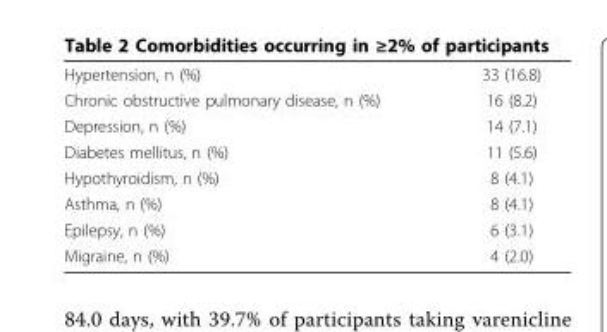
<table><tbody><tr><td>Hypertension, n (%)</td><td>33 (16.8)</td></tr><tr><td>Chronic obstructive pulmonary disease, n (%)</td><td>16 (8.2)</td></tr><tr><td>Depression, n (%)</td><td>14 (7.1)</td></tr><tr><td>Diabetes mellitus, n (%)</td><td>11 (5.6)</td></tr><tr><td>Hypothyroidism, n (%)</td><td>8 (4.1)</td></tr><tr><td>Asthma, n (%)</td><td>8 (4.1)</td></tr><tr><td>Epilepsy, n (%)</td><td>6 (3.1)</td></tr><tr><td>Migraine, n (%)</td><td>4 (2.0)</td></tr></tbody></table>